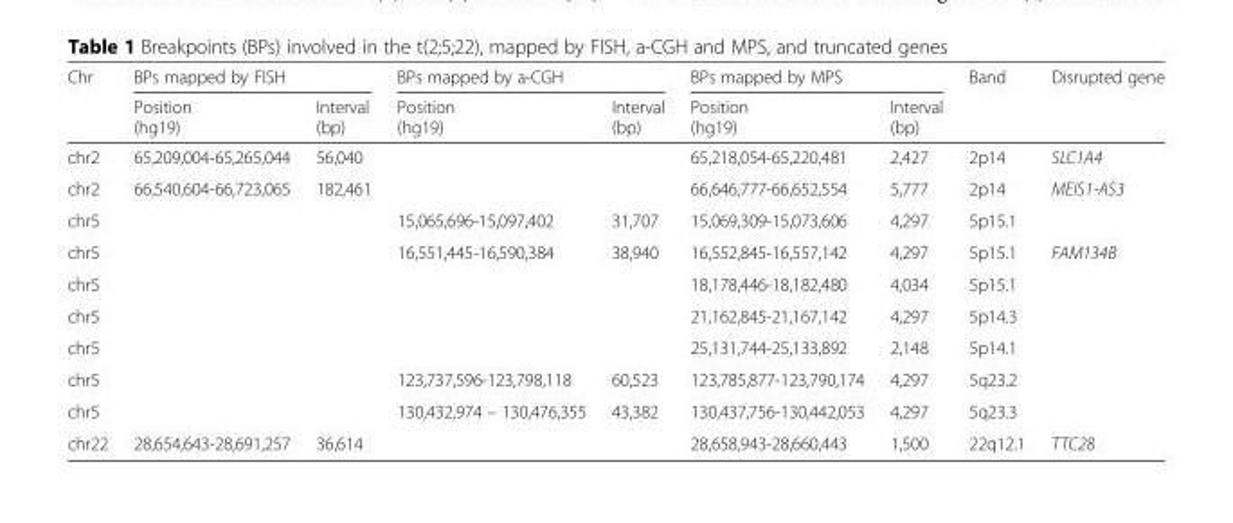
<table><thead><tr><td rowspan="2">Chr</td><td colspan="2">BPs mapped by FISH</td><td colspan="2">BPs mapped by a-CGH</td><td colspan="2">BPs mapped by MPS</td><td rowspan="2">Band</td><td rowspan="2">Disrupted gene</td></tr><tr><td>Position (hg19)</td><td>Interval (bp)</td><td>Position (hg19)</td><td>Interval (bp)</td><td>Position (hg19)</td><td>Interval (bp)</td></tr></thead><tbody><tr><td>chr2</td><td>65,209,004-65,265,044</td><td>56,040</td><td></td><td></td><td>65,218,054-65,220,481</td><td>2,427</td><td>2p14</td><td>SLC1A4</td></tr><tr><td>chr2</td><td>66,540,604-66,723,065</td><td>182,461</td><td></td><td></td><td>66,646,777-66,652,554</td><td>5,777</td><td>2p14</td><td>MEIS1-AS3</td></tr><tr><td>chr5</td><td></td><td></td><td>15,065,696-15,097,402</td><td>31,707</td><td>15,069,309-15,073,606</td><td>4,297</td><td>5p15.1</td><td></td></tr><tr><td>chr5</td><td></td><td></td><td>16,551,445-16,590,384</td><td>38,940</td><td>16,552,845-16,557,142</td><td>4,297</td><td>5p15.1</td><td>FAM134B</td></tr><tr><td>chr5</td><td></td><td></td><td></td><td></td><td>18,178,446-18,182,480</td><td>4,034</td><td>5p15.1</td><td></td></tr><tr><td>chr5</td><td></td><td></td><td></td><td></td><td>21,162,845-21,167,142</td><td>4,297</td><td>5p14.3</td><td></td></tr><tr><td>chr5</td><td></td><td></td><td></td><td></td><td>25,131,744-25,133,892</td><td>2,148</td><td>5p14.1</td><td></td></tr><tr><td>chr5</td><td></td><td></td><td>123,737,596-123,798,118</td><td>60,523</td><td>123,785,877-123,790,174</td><td>4,297</td><td>5q23.2</td><td></td></tr><tr><td>chr5</td><td></td><td></td><td>130,432,974 – 130,476,355</td><td>43,382</td><td>130,437,756-130,442,053</td><td>4,297</td><td>5q23.3</td><td></td></tr><tr><td>chr22</td><td>28,654,643-28,691,257</td><td>36,614</td><td></td><td></td><td>28,658,943-28,660,443</td><td>1,500</td><td>22q12.1</td><td>TTC28</td></tr></tbody></table>